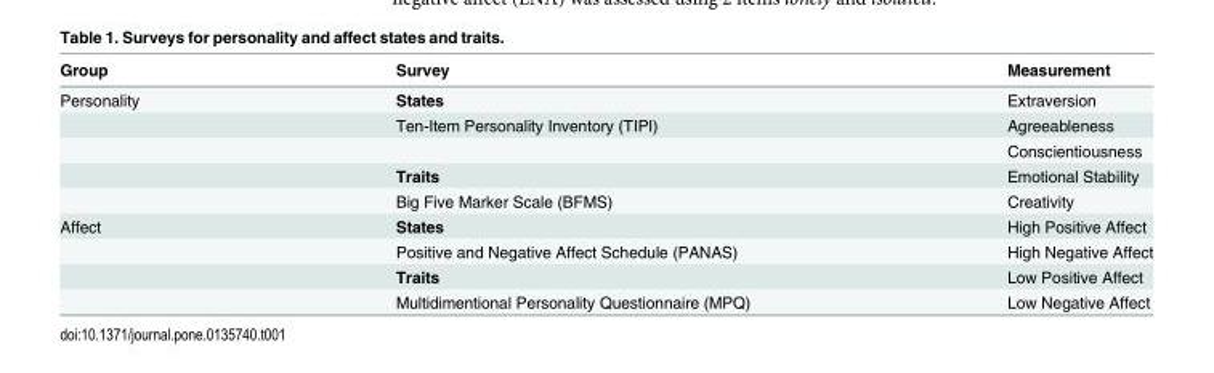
<table><thead><tr><td>Group</td><td>Survey</td><td>Measurement</td></tr></thead><tbody><tr><td rowspan="5">Personality</td><td>States</td><td>Extraversion</td></tr><tr><td>Ten-Item Personality Inventory (TIPI)</td><td>Agreeableness</td></tr><tr><td></td><td>Conscientiousness</td></tr><tr><td>Traits</td><td>Emotional Stability</td></tr><tr><td>Big Five Marker Scale (BFMS)</td><td>Creativity</td></tr><tr><td rowspan="4">Affect</td><td>States</td><td>High Positive Affect</td></tr><tr><td>Positive and Negative Affect Schedule (PANAS)</td><td>High Negative Affect</td></tr><tr><td>Traits</td><td>Low Positive Affect</td></tr><tr><td>Multidimentional Personality Questionnaire (MPQ)</td><td>Low Negative Affect</td></tr></tbody></table>